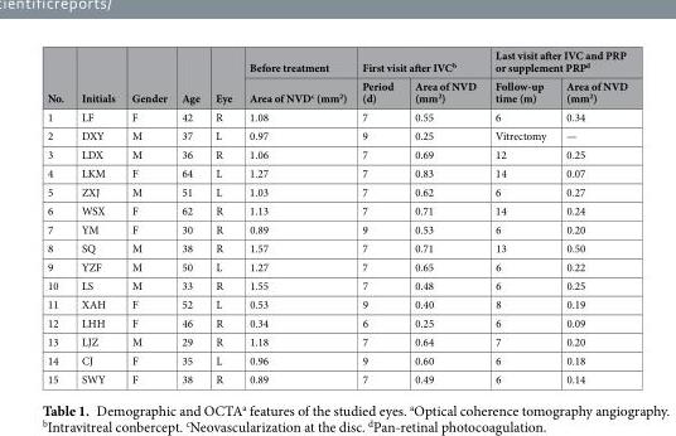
<table><thead><tr><td rowspan="2">No.</td><td rowspan="2">Initials</td><td rowspan="2">Gender</td><td rowspan="2">Age</td><td rowspan="2">Eye</td><td rowspan="2">Before treatment Area of NVD<sup>c</sup> (mm<sup>2</sup>)</td><td colspan="2">First visit after IVC<sup>b</sup></td><td colspan="2">Last visit after IVC and PRP or supplement PRP<sup>d</sup></td></tr><tr><td>Period (d)</td><td>Area of NVD (mm<sup>2</sup>)</td><td>Follow-up time (m)</td><td>Area of NVD (mm<sup>2</sup>)</td></tr></thead><tbody><tr><td>1</td><td>LF</td><td>F</td><td>42</td><td>R</td><td>1.08</td><td>7</td><td>0.55</td><td>6</td><td>0.34</td></tr><tr><td>2</td><td>DXY</td><td>M</td><td>37</td><td>L</td><td>0.97</td><td>9</td><td>0.25</td><td>Vitrectomy</td><td>—</td></tr><tr><td>3</td><td>LDX</td><td>M</td><td>36</td><td>R</td><td>1.06</td><td>7</td><td>0.69</td><td>12</td><td>0.25</td></tr><tr><td>4</td><td>LKM</td><td>F</td><td>64</td><td>L</td><td>1.27</td><td>7</td><td>0.83</td><td>14</td><td>0.07</td></tr><tr><td>5</td><td>ZXJ</td><td>M</td><td>51</td><td>L</td><td>1.03</td><td>7</td><td>0.62</td><td>6</td><td>0.27</td></tr><tr><td>6</td><td>WSX</td><td>F</td><td>62</td><td>R</td><td>1.13</td><td>7</td><td>0.71</td><td>14</td><td>0.24</td></tr><tr><td>7</td><td>YM</td><td>F</td><td>30</td><td>R</td><td>0.89</td><td>9</td><td>0.53</td><td>6</td><td>0.20</td></tr><tr><td>8</td><td>SQ</td><td>M</td><td>38</td><td>R</td><td>1.57</td><td>7</td><td>0.71</td><td>13</td><td>0.50</td></tr><tr><td>9</td><td>YZF</td><td>M</td><td>50</td><td>L</td><td>1.27</td><td>7</td><td>0.65</td><td>6</td><td>0.22</td></tr><tr><td>10</td><td>LS</td><td>M</td><td>33</td><td>R</td><td>1.55</td><td>7</td><td>0.48</td><td>6</td><td>0.25</td></tr><tr><td>11</td><td>XAH</td><td>F</td><td>52</td><td>L</td><td>0.53</td><td>9</td><td>0.40</td><td>8</td><td>0.19</td></tr><tr><td>12</td><td>LHH</td><td>F</td><td>46</td><td>R</td><td>0.34</td><td>6</td><td>0.25</td><td>6</td><td>0.09</td></tr><tr><td>13</td><td>LJZ</td><td>M</td><td>29</td><td>R</td><td>1.18</td><td>7</td><td>0.64</td><td>7</td><td>0.20</td></tr><tr><td>14</td><td>CJ</td><td>F</td><td>35</td><td>L</td><td>0.96</td><td>9</td><td>0.60</td><td>6</td><td>0.18</td></tr><tr><td>15</td><td>SWY</td><td>F</td><td>38</td><td>R</td><td>0.89</td><td>7</td><td>0.49</td><td>6</td><td>0.14</td></tr></tbody></table>